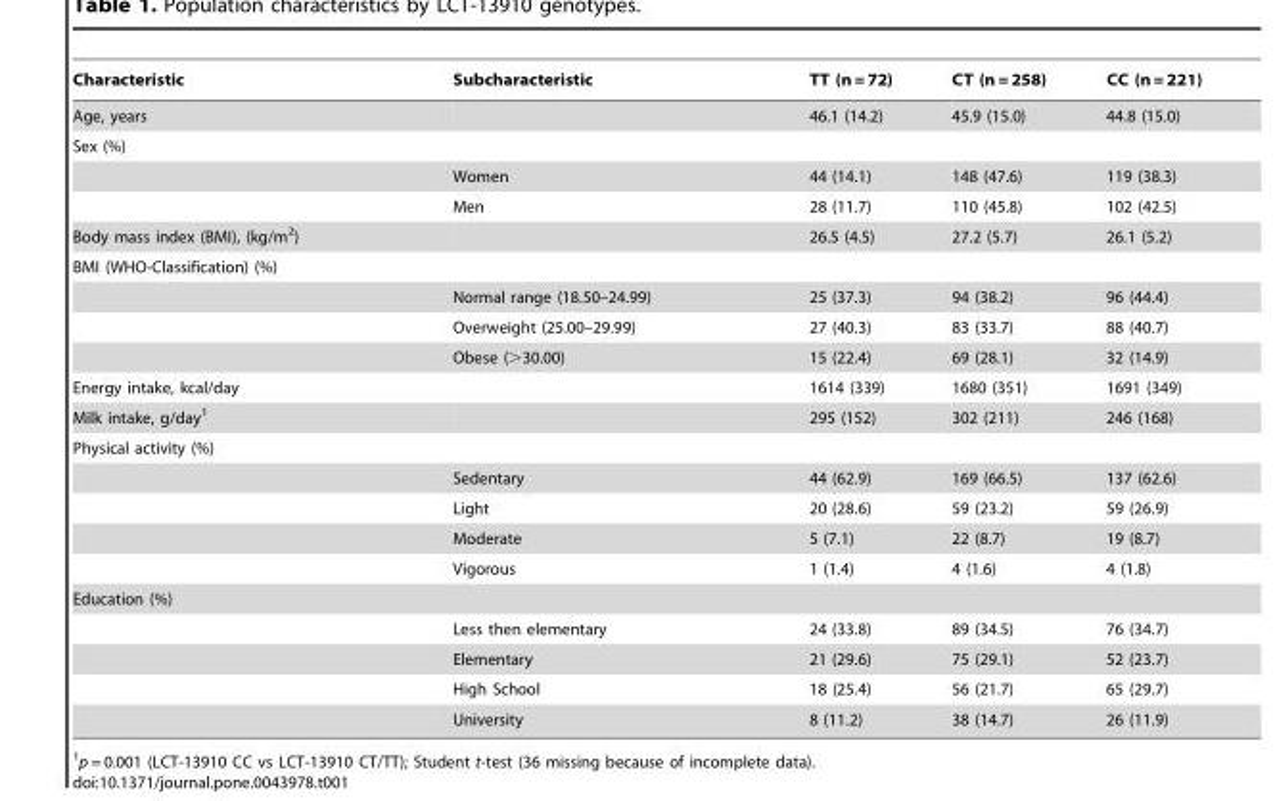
<table><thead><tr><td>Characteristic</td><td>Subcharacteristic</td><td>TT (n = 72)</td><td>CT (n = 258)</td><td>CC (n = 221)</td></tr></thead><tbody><tr><td>Age, years</td><td></td><td>46.1 (14.2)</td><td>45.9 (15.0)</td><td>44.8 (15.0)</td></tr><tr><td colspan="5">Sex (%)</td></tr><tr><td></td><td>Women</td><td>44 (14.1)</td><td>148 (47.6)</td><td>119 (38.3)</td></tr><tr><td></td><td>Men</td><td>28 (11.7)</td><td>110 (45.8)</td><td>102 (42.5)</td></tr><tr><td>Body mass index (BMI), (kg/m<sup>2</sup>)</td><td></td><td>26.5 (4.5)</td><td>27.2 (5.7)</td><td>26.1 (5.2)</td></tr><tr><td colspan="5">BMI (WHO-Classification) (%)</td></tr><tr><td></td><td>Normal range (18.50–24.99)</td><td>25 (37.3)</td><td>94 (38.2)</td><td>96 (44.4)</td></tr><tr><td></td><td>Overweight (25.00–29.99)</td><td>27 (40.3)</td><td>83 (33.7)</td><td>88 (40.7)</td></tr><tr><td></td><td>Obese (&gt;30.00)</td><td>15 (22.4)</td><td>69 (28.1)</td><td>32 (14.9)</td></tr><tr><td>Energy intake, kcal/day</td><td></td><td>1614 (339)</td><td>1680 (351)</td><td>1691 (349)</td></tr><tr><td>Milk intake, g/day<sup>1</sup></td><td></td><td>295 (152)</td><td>302 (211)</td><td>246 (168)</td></tr><tr><td colspan="5">Physical activity (%)</td></tr><tr><td></td><td>Sedentary</td><td>44 (62.9)</td><td>169 (66.5)</td><td>137 (62.6)</td></tr><tr><td></td><td>Light</td><td>20 (28.6)</td><td>59 (23.2)</td><td>59 (26.9)</td></tr><tr><td></td><td>Moderate</td><td>5 (7.1)</td><td>22 (8.7)</td><td>19 (8.7)</td></tr><tr><td></td><td>Vigorous</td><td>1 (1.4)</td><td>4 (1.6)</td><td>4 (1.8)</td></tr><tr><td colspan="5">Education (%)</td></tr><tr><td></td><td>Less then elementary</td><td>24 (33.8)</td><td>89 (34.5)</td><td>76 (34.7)</td></tr><tr><td></td><td>Elementary</td><td>21 (29.6)</td><td>75 (29.1)</td><td>52 (23.7)</td></tr><tr><td></td><td>High School</td><td>18 (25.4)</td><td>56 (21.7)</td><td>65 (29.7)</td></tr><tr><td></td><td>University</td><td>8 (11.2)</td><td>38 (14.7)</td><td>26 (11.9)</td></tr></tbody></table>